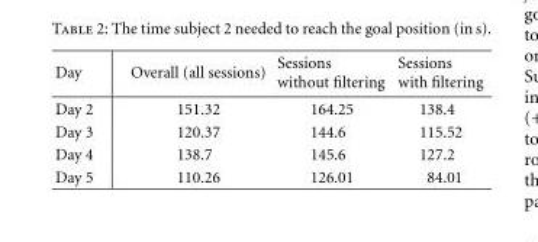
<table><thead><tr><td>Day</td><td>Overall (all sessions)</td><td>Sessions without filtering</td><td>Sessions with filtering</td></tr></thead><tbody><tr><td>Day 2</td><td>151.32</td><td>164.25</td><td>138.4</td></tr><tr><td>Day 3</td><td>120.37</td><td>144.6</td><td>115.52</td></tr><tr><td>Day 4</td><td>138.7</td><td>145.6</td><td>127.2</td></tr><tr><td>Day 5</td><td>110.26</td><td>126.01</td><td>84.01</td></tr></tbody></table>